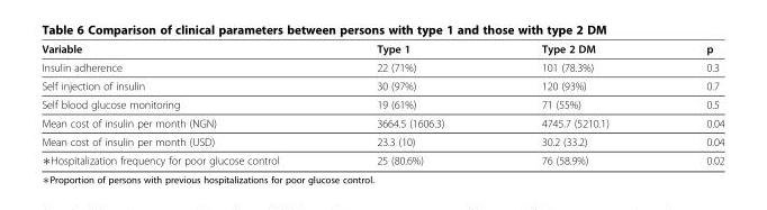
<table><thead><tr><td>Variable</td><td>Type 1</td><td>Type 2 DM</td><td>p</td></tr></thead><tbody><tr><td>Insulin adherence</td><td>22 (71%)</td><td>101 (78.3%)</td><td>0.3</td></tr><tr><td>Self injection of insulin</td><td>30 (97%)</td><td>120 (93%)</td><td>0.7</td></tr><tr><td>Self blood glucose monitoring</td><td>19 (61%)</td><td>71 (55%)</td><td>0.5</td></tr><tr><td>Mean cost of insulin per month (NGN)</td><td>3664.5 (1606.3)</td><td>4745.7 (5210.1)</td><td>0.04</td></tr><tr><td>Mean cost of insulin per month (USD)</td><td>23.3 (10)</td><td>30.2 (33.2)</td><td>0.04</td></tr><tr><td>∗Hospitalization frequency for poor glucose control</td><td>25 (80.6%)</td><td>76 (58.9%)</td><td>0.02</td></tr></tbody></table>